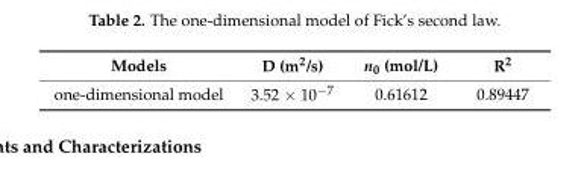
<table><thead><tr><td>Models</td><td>D (m<sup>2</sup>/s)</td><td>n<sub>0</sub> (mol/L)</td><td>R<sup>2</sup></td></tr></thead><tbody><tr><td>one-dimensional model</td><td>3.52 × 10<sup>−7</sup></td><td>0.61612</td><td>0.89447</td></tr></tbody></table>